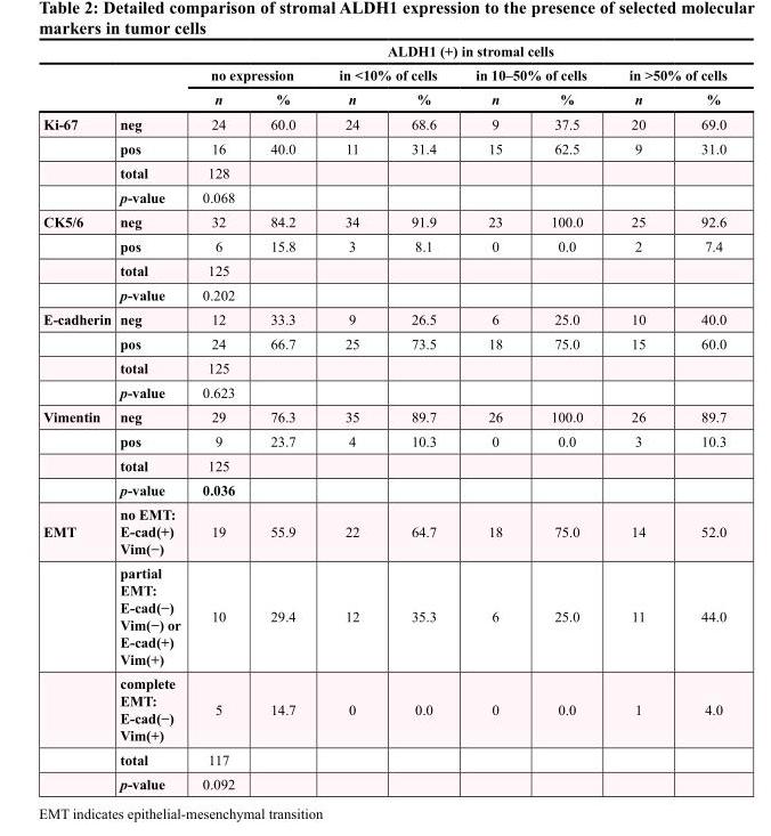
<table><thead><tr><td rowspan="3"></td><td rowspan="3"></td><td colspan="8">ALDH1 (+) in stromal cells</td></tr><tr><td colspan="2">no expression</td><td colspan="2">in &lt;10% of cells</td><td colspan="2">in 10–50% of cells</td><td colspan="2">in &gt;50% of cells</td></tr><tr><td>n</td><td>%</td><td>n</td><td>%</td><td>n</td><td>%</td><td>n</td><td>%</td></tr></thead><tbody><tr><td rowspan="4">Ki-67</td><td>neg</td><td>24</td><td>60.0</td><td>24</td><td>68.6</td><td>9</td><td>37.5</td><td>20</td><td>69.0</td></tr><tr><td>pos</td><td>16</td><td>40.0</td><td>11</td><td>31.4</td><td>15</td><td>62.5</td><td>9</td><td>31.0</td></tr><tr><td>total</td><td>128</td><td></td><td></td><td></td><td></td><td></td><td></td><td></td></tr><tr><td>p-value</td><td>0.068</td><td></td><td></td><td></td><td></td><td></td><td></td><td></td></tr><tr><td rowspan="4">CK5/6</td><td>neg</td><td>32</td><td>84.2</td><td>34</td><td>91.9</td><td>23</td><td>100.0</td><td>25</td><td>92.6</td></tr><tr><td>pos</td><td>6</td><td>15.8</td><td>3</td><td>8.1</td><td>0</td><td>0.0</td><td>2</td><td>7.4</td></tr><tr><td>total</td><td>125</td><td></td><td></td><td></td><td></td><td></td><td></td><td></td></tr><tr><td>p-value</td><td>0.202</td><td></td><td></td><td></td><td></td><td></td><td></td><td></td></tr><tr><td rowspan="4">E-cadherin</td><td>neg</td><td>12</td><td>33.3</td><td>9</td><td>26.5</td><td>6</td><td>25.0</td><td>10</td><td>40.0</td></tr><tr><td>pos</td><td>24</td><td>66.7</td><td>25</td><td>73.5</td><td>18</td><td>75.0</td><td>15</td><td>60.0</td></tr><tr><td>total</td><td>125</td><td></td><td></td><td></td><td></td><td></td><td></td><td></td></tr><tr><td>p-value</td><td>0.623</td><td></td><td></td><td></td><td></td><td></td><td></td><td></td></tr><tr><td rowspan="4">Vimentin</td><td>neg</td><td>29</td><td>76.3</td><td>35</td><td>89.7</td><td>26</td><td>100.0</td><td>26</td><td>89.7</td></tr><tr><td>pos</td><td>9</td><td>23.7</td><td>4</td><td>10.3</td><td>0</td><td>0.0</td><td>3</td><td>10.3</td></tr><tr><td>total</td><td>125</td><td></td><td></td><td></td><td></td><td></td><td></td><td></td></tr><tr><td>p-value</td><td>0.036</td><td></td><td></td><td></td><td></td><td></td><td></td><td></td></tr><tr><td rowspan="5">EMT</td><td>no EMT: E-cad(+) Vim(−)</td><td>19</td><td>55.9</td><td>22</td><td>64.7</td><td>18</td><td>75.0</td><td>14</td><td>52.0</td></tr><tr><td>partial EMT: E-cad(−) Vim(−) or E-cad(+) Vim(+)</td><td>10</td><td>29.4</td><td>12</td><td>35.3</td><td>6</td><td>25.0</td><td>11</td><td>44.0</td></tr><tr><td>complete EMT: E-cad(−) Vim(+)</td><td>5</td><td>14.7</td><td>0</td><td>0.0</td><td>0</td><td>0.0</td><td>1</td><td>4.0</td></tr><tr><td>total</td><td>117</td><td></td><td></td><td></td><td></td><td></td><td></td><td></td></tr><tr><td>p-value</td><td>0.092</td><td></td><td></td><td></td><td></td><td></td><td></td><td></td></tr></tbody></table>